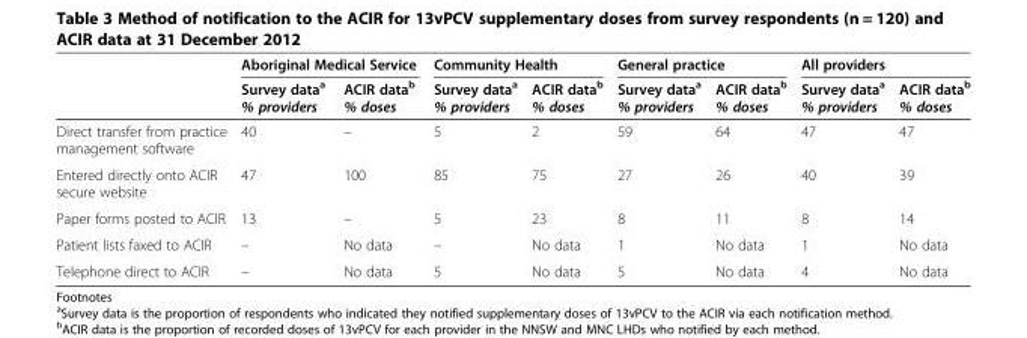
<table><thead><tr><td rowspan="2"></td><td colspan="2">Aboriginal Medical Service</td><td colspan="2">Community Health</td><td colspan="2">General practice</td><td colspan="2">All providers</td></tr><tr><td>Survey data<sup>a</sup> % providers</td><td>ACIR data<sup>b</sup> % doses</td><td>Survey data<sup>a</sup> % providers</td><td>ACIR data<sup>b</sup> % doses</td><td>Survey data<sup>a</sup> % providers</td><td>ACIR data<sup>b</sup> % doses</td><td>Survey data<sup>a</sup> % providers</td><td>ACIR data<sup>b</sup> % doses</td></tr></thead><tbody><tr><td>Direct transfer from practice management software</td><td>40</td><td>–</td><td>5</td><td>2</td><td>59</td><td>64</td><td>47</td><td>47</td></tr><tr><td>Entered directly onto ACIR secure website</td><td>47</td><td>100</td><td>85</td><td>75</td><td>27</td><td>26</td><td>40</td><td>39</td></tr><tr><td>Paper forms posted to ACIR</td><td>13</td><td>–</td><td>5</td><td>23</td><td>8</td><td>11</td><td>8</td><td>14</td></tr><tr><td>Patient lists faxed to ACIR</td><td>–</td><td>No data</td><td>–</td><td>No data</td><td>1</td><td>No data</td><td>1</td><td>No data</td></tr><tr><td>Telephone direct to ACIR</td><td>–</td><td>No data</td><td>5</td><td>No data</td><td>5</td><td>No data</td><td>4</td><td>No data</td></tr></tbody></table>